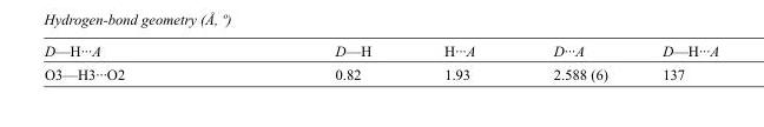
<table><tbody><tr><td>D—H···A</td><td>D—H</td><td>H···A</td><td>D···A</td><td>D—H···A</td></tr><tr><td>O3—H3···O2</td><td>0.82</td><td>1.93</td><td>2.588 (6)</td><td>137</td></tr></tbody></table>